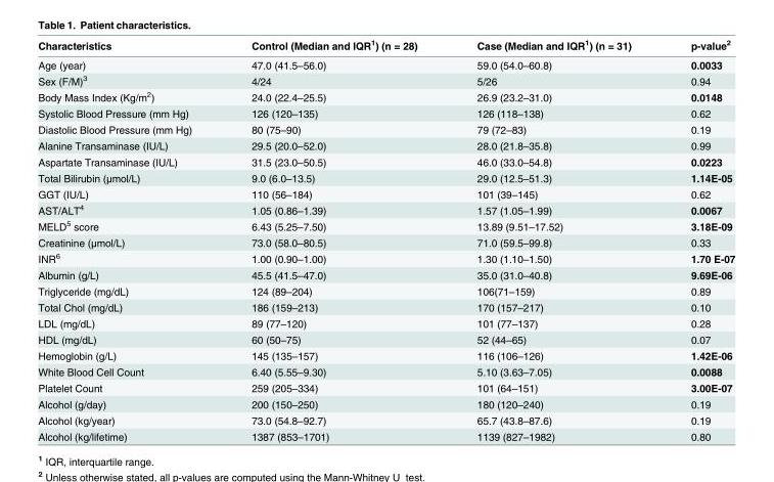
<table><thead><tr><td>Characteristics</td><td>Control (Median and IQR<sup>1</sup>) (n = 28)</td><td>Case (Median and IQR<sup>1</sup>) (n = 31)</td><td>p-value<sup>2</sup></td></tr></thead><tbody><tr><td>Age (year)</td><td>47.0 (41.5–56.0)</td><td>59.0 (54.0–60.8)</td><td>0.0033</td></tr><tr><td>Sex (F/M)<sup>3</sup></td><td>4/24</td><td>5/26</td><td>0.94</td></tr><tr><td>Body Mass Index (Kg/m<sup>2</sup>)</td><td>24.0 (22.4–25.5)</td><td>26.9 (23.2–31.0)</td><td>0.0148</td></tr><tr><td>Systolic Blood Pressure (mm Hg)</td><td>126 (120–135)</td><td>126 (118–138)</td><td>0.62</td></tr><tr><td>Diastolic Blood Pressure (mm Hg)</td><td>80 (75–90)</td><td>79 (72–83)</td><td>0.19</td></tr><tr><td>Alanine Transaminase (IU/L)</td><td>29.5 (20.0–52.0)</td><td>28.0 (21.8–35.8)</td><td>0.99</td></tr><tr><td>Aspartate Transaminase (IU/L)</td><td>31.5 (23.0–50.5)</td><td>46.0 (33.0–54.8)</td><td>0.0223</td></tr><tr><td>Total Bilirubin (μmol/L)</td><td>9.0 (6.0–13.5)</td><td>29.0 (12.5–51.3)</td><td>1.14E-05</td></tr><tr><td>GGT (IU/L)</td><td>110 (56–184)</td><td>101 (39–145)</td><td>0.62</td></tr><tr><td>AST/ALT<sup>4</sup></td><td>1.05 (0.86–1.39)</td><td>1.57 (1.05–1.99)</td><td>0.0067</td></tr><tr><td>MELD<sup>5</sup> score</td><td>6.43 (5.25–7.50)</td><td>13.89 (9.51–17.52)</td><td>3.18E-09</td></tr><tr><td>Creatinine (μmol/L)</td><td>73.0 (58.0–80.5)</td><td>71.0 (59.5–99.8)</td><td>0.33</td></tr><tr><td>INR<sup>6</sup></td><td>1.00 (0.90–1.00)</td><td>1.30 (1.10–1.50)</td><td>1.70 E-07</td></tr><tr><td>Albumin (g/L)</td><td>45.5 (41.5–47.0)</td><td>35.0 (31.0–40.8)</td><td>9.69E-06</td></tr><tr><td>Triglyceride (mg/dL)</td><td>124 (89–204)</td><td>106(71–159)</td><td>0.89</td></tr><tr><td>Total Chol (mg/dL)</td><td>186 (159–213)</td><td>170 (157–217)</td><td>0.10</td></tr><tr><td>LDL (mg/dL)</td><td>89 (77–120)</td><td>101 (77–137)</td><td>0.28</td></tr><tr><td>HDL (mg/dL)</td><td>60 (50–75)</td><td>52 (44–65)</td><td>0.07</td></tr><tr><td>Hemoglobin (g/L)</td><td>145 (135–157)</td><td>116 (106–126)</td><td>1.42E-06</td></tr><tr><td>White Blood Cell Count</td><td>6.40 (5.55–9.30)</td><td>5.10 (3.63–7.05)</td><td>0.0088</td></tr><tr><td>Platelet Count</td><td>259 (205–334)</td><td>101 (64–151)</td><td>3.00E-07</td></tr><tr><td>Alcohol (g/day)</td><td>200 (150–250)</td><td>180 (120–240)</td><td>0.19</td></tr><tr><td>Alcohol (kg/year)</td><td>73.0 (54.8–92.7)</td><td>65.7 (43.8–87.6)</td><td>0.19</td></tr><tr><td>Alcohol (kg/lifetime)</td><td>1387 (853–1701)</td><td>1139 (827–1982)</td><td>0.80</td></tr></tbody></table>